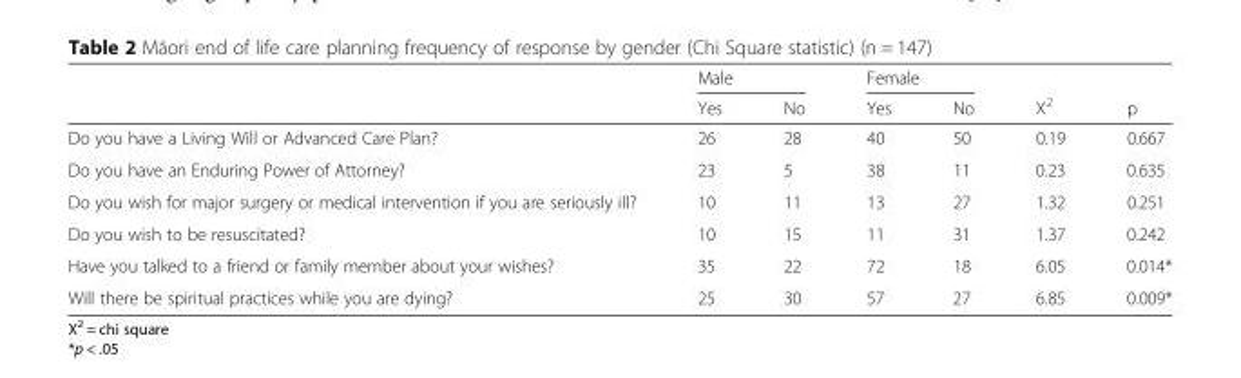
<table><thead><tr><td rowspan="2"></td><td colspan="2">Male</td><td colspan="2">Female</td><td rowspan="2">X<sup>2</sup></td><td rowspan="2">p</td></tr><tr><td>Yes</td><td>No</td><td>Yes</td><td>No</td></tr></thead><tbody><tr><td>Do you have a Living Will or Advanced Care Plan?</td><td>26</td><td>28</td><td>40</td><td>50</td><td>0.19</td><td>0.667</td></tr><tr><td>Do you have an Enduring Power of Attorney?</td><td>23</td><td>5</td><td>38</td><td>11</td><td>0.23</td><td>0.635</td></tr><tr><td>Do you wish for major surgery or medical intervention if you are seriously ill?</td><td>10</td><td>11</td><td>13</td><td>27</td><td>1.32</td><td>0.251</td></tr><tr><td>Do you wish to be resuscitated?</td><td>10</td><td>15</td><td>11</td><td>31</td><td>1.37</td><td>0.242</td></tr><tr><td>Have you talked to a friend or family member about your wishes?</td><td>35</td><td>22</td><td>72</td><td>18</td><td>6.05</td><td>0.014*</td></tr><tr><td>Will there be spiritual practices while you are dying?</td><td>25</td><td>30</td><td>57</td><td>27</td><td>6.85</td><td>0.009*</td></tr></tbody></table>